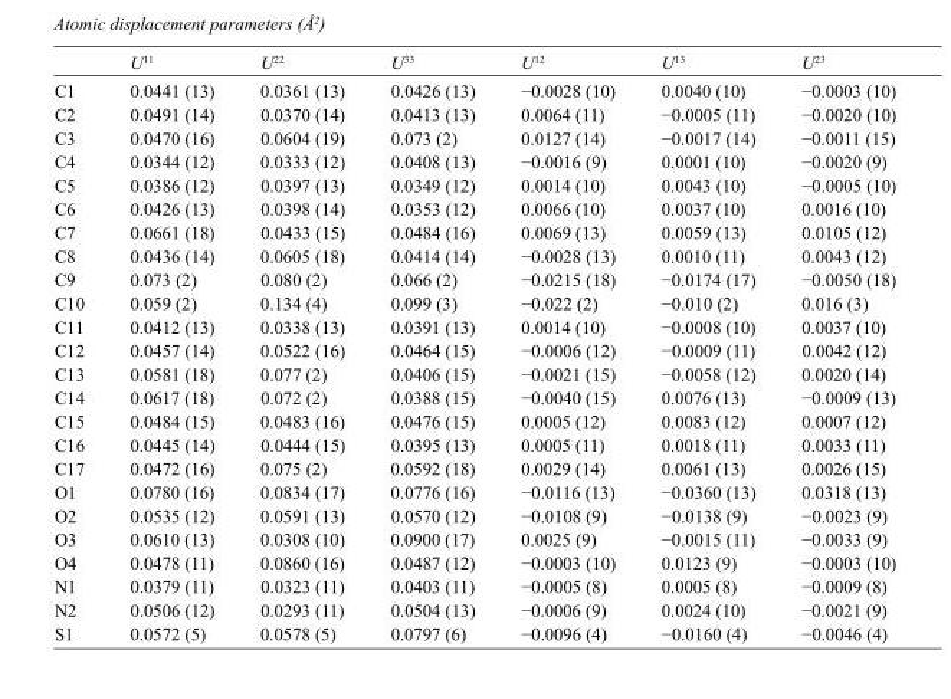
<table><thead><tr><td></td><td>U<sup>11</sup></td><td>U<sup>22</sup></td><td>U<sup>33</sup></td><td>U<sup>12</sup></td><td>U<sup>13</sup></td><td>U<sup>23</sup></td></tr></thead><tbody><tr><td>C1</td><td>0.0441 (13)</td><td>0.0361 (13)</td><td>0.0426 (13)</td><td>−0.0028 (10)</td><td>0.0040 (10)</td><td>−0.0003 (10)</td></tr><tr><td>C2</td><td>0.0491 (14)</td><td>0.0370 (14)</td><td>0.0413 (13)</td><td>0.0064 (11)</td><td>−0.0005 (11)</td><td>−0.0020 (10)</td></tr><tr><td>C3</td><td>0.0470 (16)</td><td>0.0604 (19)</td><td>0.073 (2)</td><td>0.0127 (14)</td><td>−0.0017 (14)</td><td>−0.0011 (15)</td></tr><tr><td>C4</td><td>0.0344 (12)</td><td>0.0333 (12)</td><td>0.0408 (13)</td><td>−0.0016 (9)</td><td>0.0001 (10)</td><td>−0.0020 (9)</td></tr><tr><td>C5</td><td>0.0386 (12)</td><td>0.0397 (13)</td><td>0.0349 (12)</td><td>0.0014 (10)</td><td>0.0043 (10)</td><td>−0.0005 (10)</td></tr><tr><td>C6</td><td>0.0426 (13)</td><td>0.0398 (14)</td><td>0.0353 (12)</td><td>0.0066 (10)</td><td>0.0037 (10)</td><td>0.0016 (10)</td></tr><tr><td>C7</td><td>0.0661 (18)</td><td>0.0433 (15)</td><td>0.0484 (16)</td><td>0.0069 (13)</td><td>0.0059 (13)</td><td>0.0105 (12)</td></tr><tr><td>C8</td><td>0.0436 (14)</td><td>0.0605 (18)</td><td>0.0414 (14)</td><td>−0.0028 (13)</td><td>0.0010 (11)</td><td>0.0043 (12)</td></tr><tr><td>C9</td><td>0.073 (2)</td><td>0.080 (2)</td><td>0.066 (2)</td><td>−0.0215 (18)</td><td>−0.0174 (17)</td><td>−0.0050 (18)</td></tr><tr><td>C10</td><td>0.059 (2)</td><td>0.134 (4)</td><td>0.099 (3)</td><td>−0.022 (2)</td><td>−0.010 (2)</td><td>0.016 (3)</td></tr><tr><td>C11</td><td>0.0412 (13)</td><td>0.0338 (13)</td><td>0.0391 (13)</td><td>0.0014 (10)</td><td>−0.0008 (10)</td><td>0.0037 (10)</td></tr><tr><td>C12</td><td>0.0457 (14)</td><td>0.0522 (16)</td><td>0.0464 (15)</td><td>−0.0006 (12)</td><td>−0.0009 (11)</td><td>0.0042 (12)</td></tr><tr><td>C13</td><td>0.0581 (18)</td><td>0.077 (2)</td><td>0.0406 (15)</td><td>−0.0021 (15)</td><td>−0.0058 (12)</td><td>0.0020 (14)</td></tr><tr><td>C14</td><td>0.0617 (18)</td><td>0.072 (2)</td><td>0.0388 (15)</td><td>−0.0040 (15)</td><td>0.0076 (13)</td><td>−0.0009 (13)</td></tr><tr><td>C15</td><td>0.0484 (15)</td><td>0.0483 (16)</td><td>0.0476 (15)</td><td>0.0005 (12)</td><td>0.0083 (12)</td><td>0.0007 (12)</td></tr><tr><td>C16</td><td>0.0445 (14)</td><td>0.0444 (15)</td><td>0.0395 (13)</td><td>0.0005 (11)</td><td>0.0018 (11)</td><td>0.0033 (11)</td></tr><tr><td>C17</td><td>0.0472 (16)</td><td>0.075 (2)</td><td>0.0592 (18)</td><td>0.0029 (14)</td><td>0.0061 (13)</td><td>0.0026 (15)</td></tr><tr><td>O1</td><td>0.0780 (16)</td><td>0.0834 (17)</td><td>0.0776 (16)</td><td>−0.0116 (13)</td><td>−0.0360 (13)</td><td>0.0318 (13)</td></tr><tr><td>O2</td><td>0.0535 (12)</td><td>0.0591 (13)</td><td>0.0570 (12)</td><td>−0.0108 (9)</td><td>−0.0138 (9)</td><td>−0.0023 (9)</td></tr><tr><td>O3</td><td>0.0610 (13)</td><td>0.0308 (10)</td><td>0.0900 (17)</td><td>0.0025 (9)</td><td>−0.0015 (11)</td><td>−0.0033 (9)</td></tr><tr><td>O4</td><td>0.0478 (11)</td><td>0.0860 (16)</td><td>0.0487 (12)</td><td>−0.0003 (10)</td><td>0.0123 (9)</td><td>−0.0003 (10)</td></tr><tr><td>N1</td><td>0.0379 (11)</td><td>0.0323 (11)</td><td>0.0403 (11)</td><td>−0.0005 (8)</td><td>0.0005 (8)</td><td>−0.0009 (8)</td></tr><tr><td>N2</td><td>0.0506 (12)</td><td>0.0293 (11)</td><td>0.0504 (13)</td><td>−0.0006 (9)</td><td>0.0024 (10)</td><td>−0.0021 (9)</td></tr><tr><td>S1</td><td>0.0572 (5)</td><td>0.0578 (5)</td><td>0.0797 (6)</td><td>−0.0096 (4)</td><td>−0.0160 (4)</td><td>−0.0046 (4)</td></tr></tbody></table>